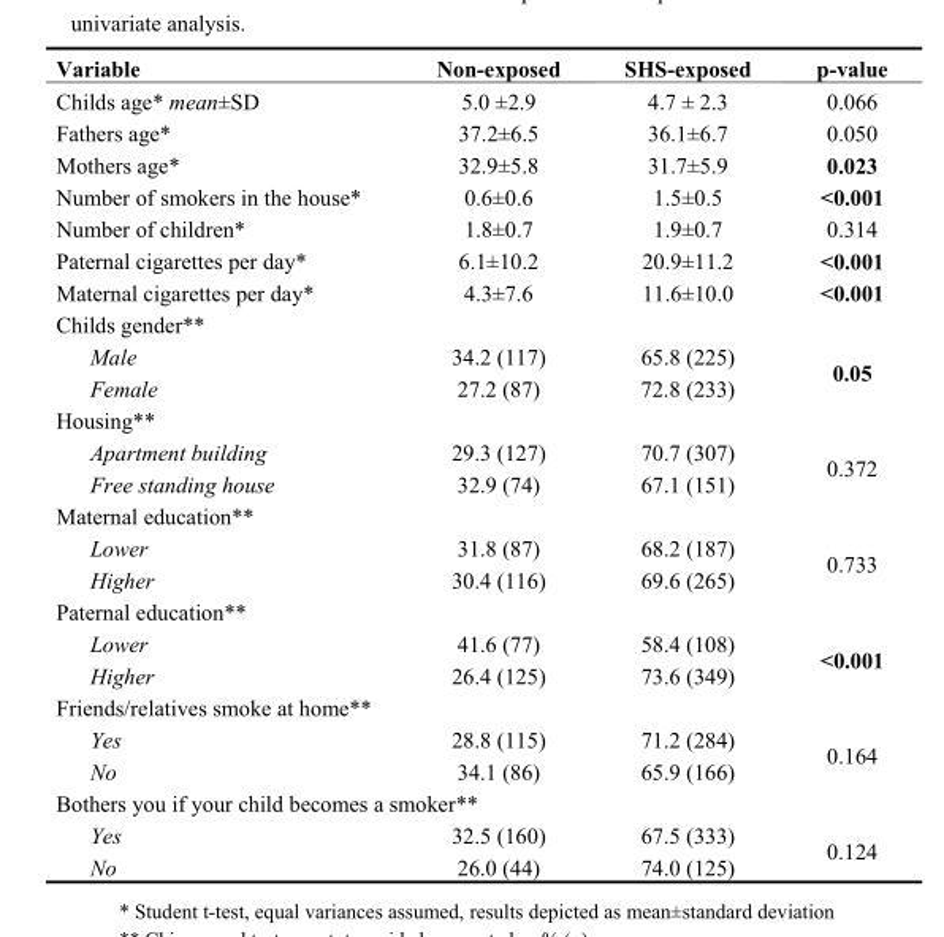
<table><thead><tr><td>Variable</td><td>Non-exposed</td><td>SHS-exposed</td><td>p-value</td></tr></thead><tbody><tr><td>Childs age* mean±SD</td><td>5.0 ±2.9</td><td>4.7 ± 2.3</td><td>0.066</td></tr><tr><td>Fathers age*</td><td>37.2±6.5</td><td>36.1±6.7</td><td>0.050</td></tr><tr><td>Mothers age*</td><td>32.9±5.8</td><td>31.7±5.9</td><td>0.023</td></tr><tr><td>Number of smokers in the house*</td><td>0.6±0.6</td><td>1.5±0.5</td><td>&lt;0.001</td></tr><tr><td>Number of children*</td><td>1.8±0.7</td><td>1.9±0.7</td><td>0.314</td></tr><tr><td>Paternal cigarettes per day*</td><td>6.1±10.2</td><td>20.9±11.2</td><td>&lt;0.001</td></tr><tr><td>Maternal cigarettes per day*</td><td>4.3±7.6</td><td>11.6±10.0</td><td>&lt;0.001</td></tr><tr><td colspan="4">Childs gender**</td></tr><tr><td>Male</td><td>34.2 (117)</td><td>65.8 (225)</td><td rowspan="2">0.05</td></tr><tr><td>Female</td><td>27.2 (87)</td><td>72.8 (233)</td></tr><tr><td colspan="4">Housing**</td></tr><tr><td>Apartment building</td><td>29.3 (127)</td><td>70.7 (307)</td><td rowspan="2">0.372</td></tr><tr><td>Free standing house</td><td>32.9 (74)</td><td>67.1 (151)</td></tr><tr><td colspan="4">Maternal education**</td></tr><tr><td>Lower</td><td>31.8 (87)</td><td>68.2 (187)</td><td rowspan="2">0.733</td></tr><tr><td>Higher</td><td>30.4 (116)</td><td>69.6 (265)</td></tr><tr><td colspan="4">Paternal education**</td></tr><tr><td>Lower</td><td>41.6 (77)</td><td>58.4 (108)</td><td rowspan="2">&lt;0.001</td></tr><tr><td>Higher</td><td>26.4 (125)</td><td>73.6 (349)</td></tr><tr><td colspan="4">Friends/relatives smoke at home**</td></tr><tr><td>Yes</td><td>28.8 (115)</td><td>71.2 (284)</td><td rowspan="2">0.164</td></tr><tr><td>No</td><td>34.1 (86)</td><td>65.9 (166)</td></tr><tr><td colspan="4">Bothers you if your child becomes a smoker**</td></tr><tr><td>Yes</td><td>32.5 (160)</td><td>67.5 (333)</td><td rowspan="2">0.124</td></tr><tr><td>No</td><td>26.0 (44)</td><td>74.0 (125)</td></tr></tbody></table>